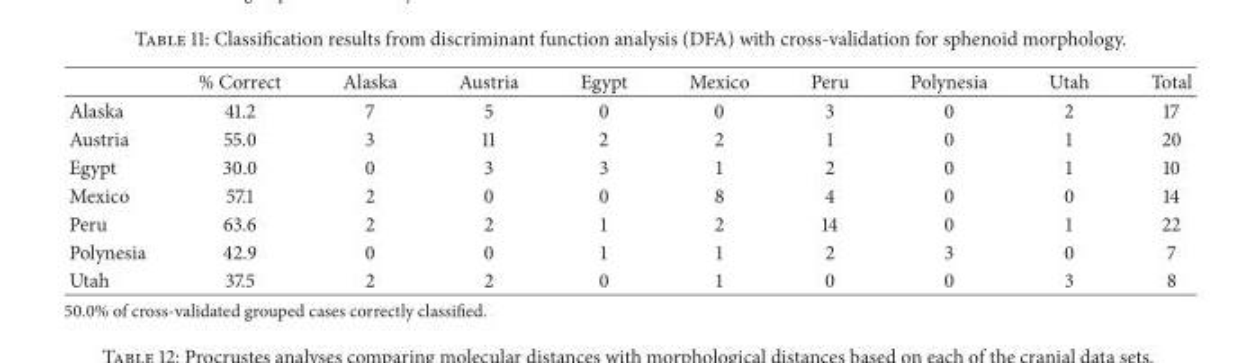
<table><thead><tr><td></td><td>% Correct</td><td>Alaska</td><td>Austria</td><td>Egypt</td><td>Mexico</td><td>Peru</td><td>Polynesia</td><td>Utah</td><td>Total</td></tr></thead><tbody><tr><td>Alaska</td><td>41.2</td><td>7</td><td>5</td><td>0</td><td>0</td><td>3</td><td>0</td><td>2</td><td>17</td></tr><tr><td>Austria</td><td>55.0</td><td>3</td><td>11</td><td>2</td><td>2</td><td>1</td><td>0</td><td>1</td><td>20</td></tr><tr><td>Egypt</td><td>30.0</td><td>0</td><td>3</td><td>3</td><td>1</td><td>2</td><td>0</td><td>1</td><td>10</td></tr><tr><td>Mexico</td><td>57.1</td><td>2</td><td>0</td><td>0</td><td>8</td><td>4</td><td>0</td><td>0</td><td>14</td></tr><tr><td>Peru</td><td>63.6</td><td>2</td><td>2</td><td>1</td><td>2</td><td>14</td><td>0</td><td>1</td><td>22</td></tr><tr><td>Polynesia</td><td>42.9</td><td>0</td><td>0</td><td>1</td><td>1</td><td>2</td><td>3</td><td>0</td><td>7</td></tr><tr><td>Utah</td><td>37.5</td><td>2</td><td>2</td><td>0</td><td>1</td><td>0</td><td>0</td><td>3</td><td>8</td></tr></tbody></table>